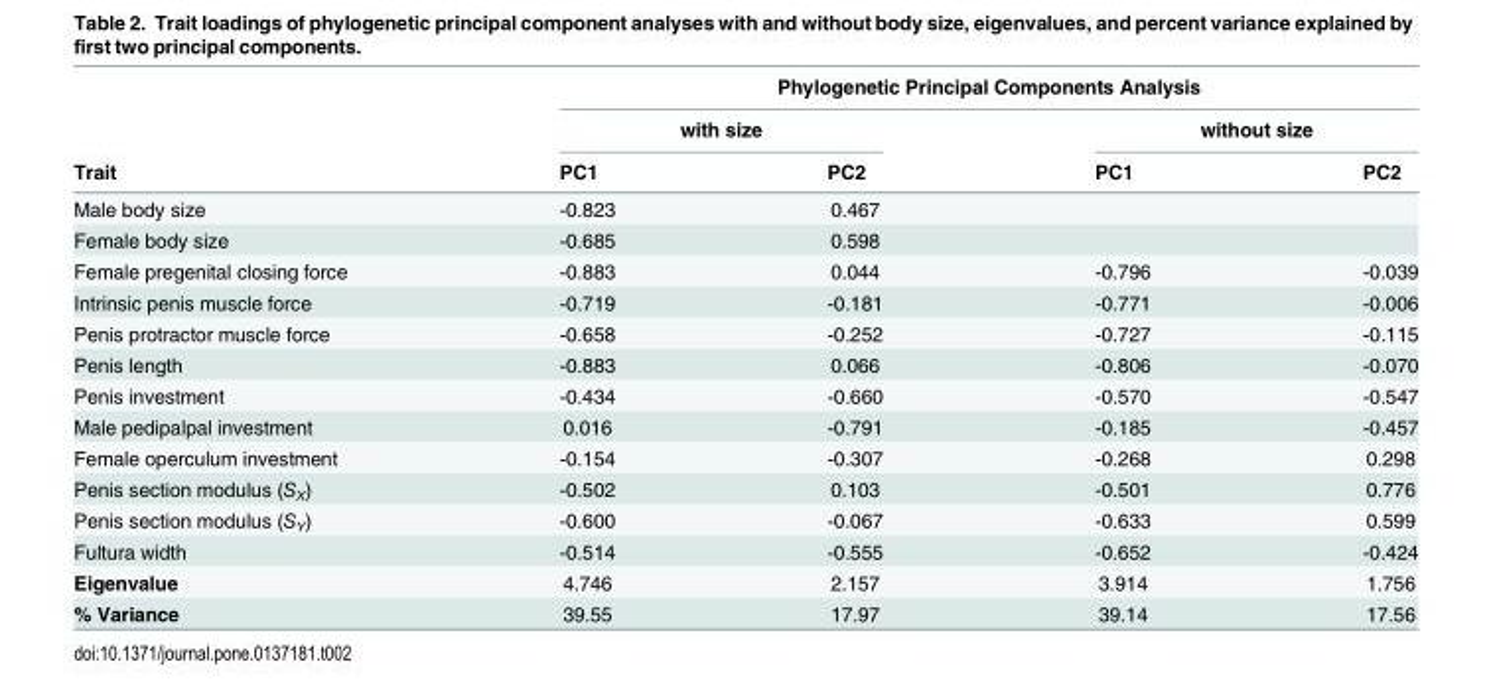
<table><thead><tr><td rowspan="3">Trait</td><td colspan="4">Phylogenetic Principal Components Analysis</td></tr><tr><td colspan="2">with size</td><td colspan="2">without size</td></tr><tr><td>PC1</td><td>PC2</td><td>PC1</td><td>PC2</td></tr></thead><tbody><tr><td>Male body size</td><td>-0.823</td><td>0.467</td><td></td><td></td></tr><tr><td>Female body size</td><td>-0.685</td><td>0.598</td><td></td><td></td></tr><tr><td>Female pregenital closing force</td><td>-0.883</td><td>0.044</td><td>-0.796</td><td>-0.039</td></tr><tr><td>Intrinsic penis muscle force</td><td>-0.719</td><td>-0.181</td><td>-0.771</td><td>-0.006</td></tr><tr><td>Penis protractor muscle force</td><td>-0.658</td><td>-0.252</td><td>-0.727</td><td>-0.115</td></tr><tr><td>Penis length</td><td>-0.883</td><td>0.066</td><td>-0.806</td><td>-0.070</td></tr><tr><td>Penis investment</td><td>-0.434</td><td>-0.660</td><td>-0.570</td><td>-0.547</td></tr><tr><td>Male pedipalpal investment</td><td>0.016</td><td>-0.791</td><td>-0.185</td><td>-0.457</td></tr><tr><td>Female operculum investment</td><td>-0.154</td><td>-0.307</td><td>-0.268</td><td>0.298</td></tr><tr><td>Penis section modulus (S<sub>X</sub>)</td><td>-0.502</td><td>0.103</td><td>-0.501</td><td>0.776</td></tr><tr><td>Penis section modulus (S<sub>Y</sub>)</td><td>-0.600</td><td>-0.067</td><td>-0.633</td><td>0.599</td></tr><tr><td>Fultura width</td><td>-0.514</td><td>-0.555</td><td>-0.652</td><td>-0.424</td></tr><tr><td>Eigenvalue</td><td>4.746</td><td>2.157</td><td>3.914</td><td>1.756</td></tr><tr><td>% Variance</td><td>39.55</td><td>17.97</td><td>39.14</td><td>17.56</td></tr></tbody></table>